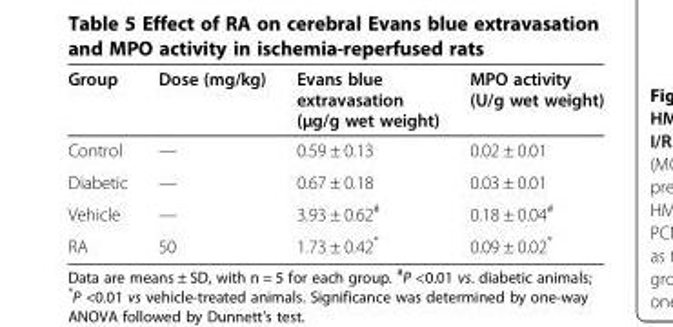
<table><thead><tr><td>Group</td><td>Dose (mg/kg)</td><td>Evans blue extravasation (μg/g wet weight)</td><td>MPO activity (U/g wet weight)</td></tr></thead><tbody><tr><td>Control</td><td>—</td><td>0.59 ± 0.13</td><td>0.02 ± 0.01</td></tr><tr><td>Diabetic</td><td>—</td><td>0.67 ± 0.18</td><td>0.03 ± 0.01</td></tr><tr><td>Vehicle</td><td>—</td><td>3.93 ± 0.62<sup>#</sup></td><td>0.18 ± 0.04<sup>#</sup></td></tr><tr><td>RA</td><td>50</td><td>1.73 ± 0.42*</td><td>0.09 ± 0.02*</td></tr></tbody></table>